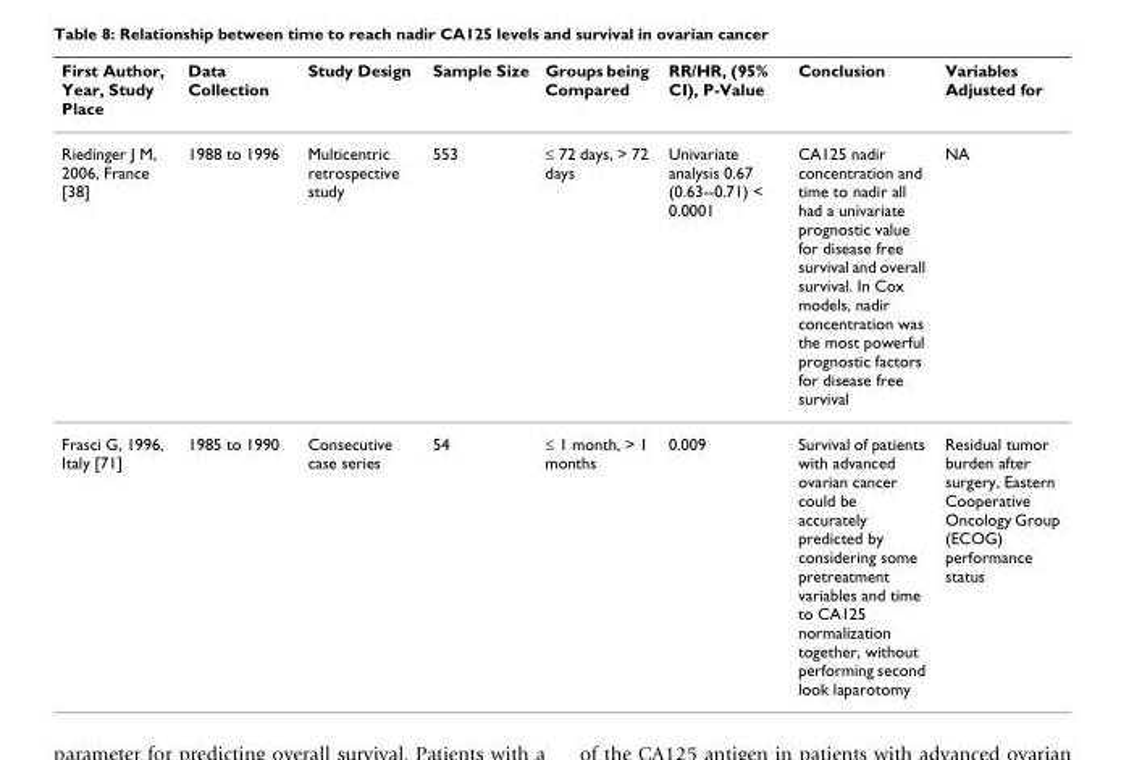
<table><thead><tr><td>First Author, Year, Study Place</td><td>Data Collection</td><td>Study Design</td><td>Sample Size</td><td>Groups being Compared</td><td>RR/HR, (95% CI), P-Value</td><td>Conclusion</td><td>Variables Adjusted for</td></tr></thead><tbody><tr><td>Riedinger J M, 2006, France [38]</td><td>1988 to 1996</td><td>Multicentric retrospective study</td><td>553</td><td>≤ 72 days, &gt; 72 days</td><td>Univariate analysis 0.67 (0.63--0.71) &lt; 0.0001</td><td>CA125 nadir concentration and time to nadir all had a univariate prognostic value for disease free survival and overall survival. In Cox models, nadir concentration was the most powerful prognostic factors for disease free survival</td><td>NA</td></tr><tr><td>Frasci G, 1996, Italy [71]</td><td>1985 to 1990</td><td>Consecutive case series</td><td>54</td><td>≤ 1 month, &gt; 1 months</td><td>0.009</td><td>Survival of patients with advanced ovarian cancer could be accurately predicted by considering some pretreatment variables and time to CA125 normalization together, without performing second look laparotomy</td><td>Residual tumor burden after surgery, Eastern Cooperative Oncology Group (ECOG) performance status</td></tr></tbody></table>